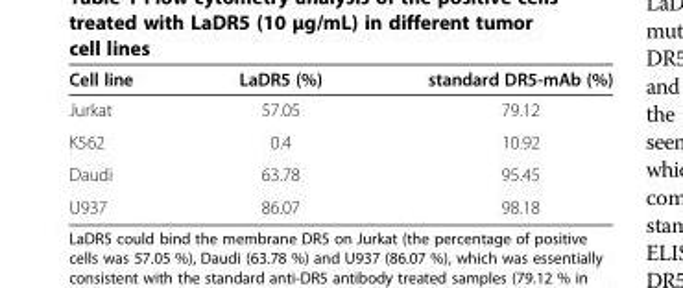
<table><thead><tr><td>Cell line</td><td>LaDR5 (%)</td><td>standard DR5-mAb (%)</td></tr></thead><tbody><tr><td>Jurkat</td><td>57.05</td><td>79.12</td></tr><tr><td>K562</td><td>0.4</td><td>10.92</td></tr><tr><td>Daudi</td><td>63.78</td><td>95.45</td></tr><tr><td>U937</td><td>86.07</td><td>98.18</td></tr></tbody></table>